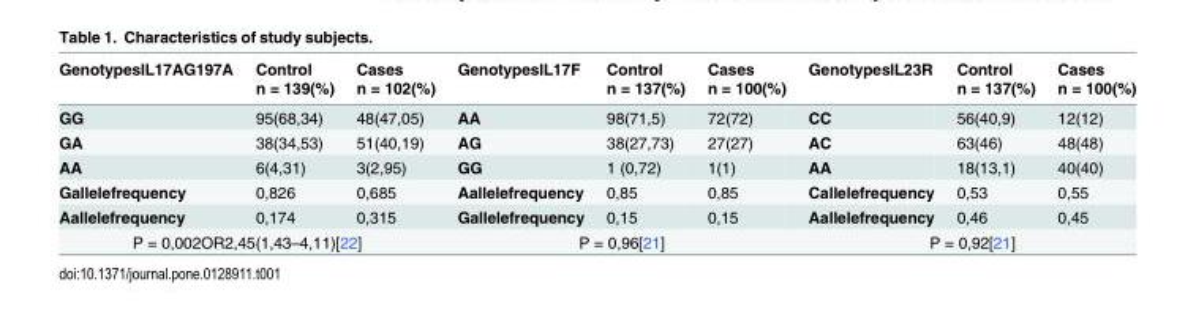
<table><thead><tr><td rowspan="2">GenotypesIL17AG197A</td><td rowspan="2">Control n = 139(%)</td><td rowspan="2">Cases n = 102(%)</td><td rowspan="2">GenotypesIL17F</td><td rowspan="2">Control n = 137(%)</td><td rowspan="2">Cases n = 100(%)</td><td rowspan="2">GenotypesIL23R</td><td rowspan="2">Control n = 137(%)</td><td rowspan="2">Cases n = 100(%)</td></tr><tr></tr></thead><tbody><tr><td>GG</td><td>95(68,34)</td><td>48(47,05)</td><td>AA</td><td>98(71,5)</td><td>72(72)</td><td>CC</td><td>56(40,9)</td><td>12(12)</td></tr><tr><td>GA</td><td>38(34,53)</td><td>51(40,19)</td><td>AG</td><td>38(27,73)</td><td>27(27)</td><td>AC</td><td>63(46)</td><td>48(48)</td></tr><tr><td>AA</td><td>6(4,31)</td><td>3(2,95)</td><td>GG</td><td>1 (0,72)</td><td>1(1)</td><td>AA</td><td>18(13,1)</td><td>40(40)</td></tr><tr><td>Gallelefrequency</td><td>0,826</td><td>0,685</td><td>Aallelefrequency</td><td>0,85</td><td>0,85</td><td>Callelefrequency</td><td>0,53</td><td>0,55</td></tr><tr><td>Aallelefrequency</td><td>0,174</td><td>0,315</td><td>Gallelefrequency</td><td>0,15</td><td>0,15</td><td>Aallelefrequency</td><td>0,46</td><td>0,45</td></tr><tr><td colspan="3">P = 0,002OR2,45(1,43–4,11)[22]</td><td colspan="3">P = 0,96[21]</td><td colspan="3">P = 0,92[21]</td></tr></tbody></table>